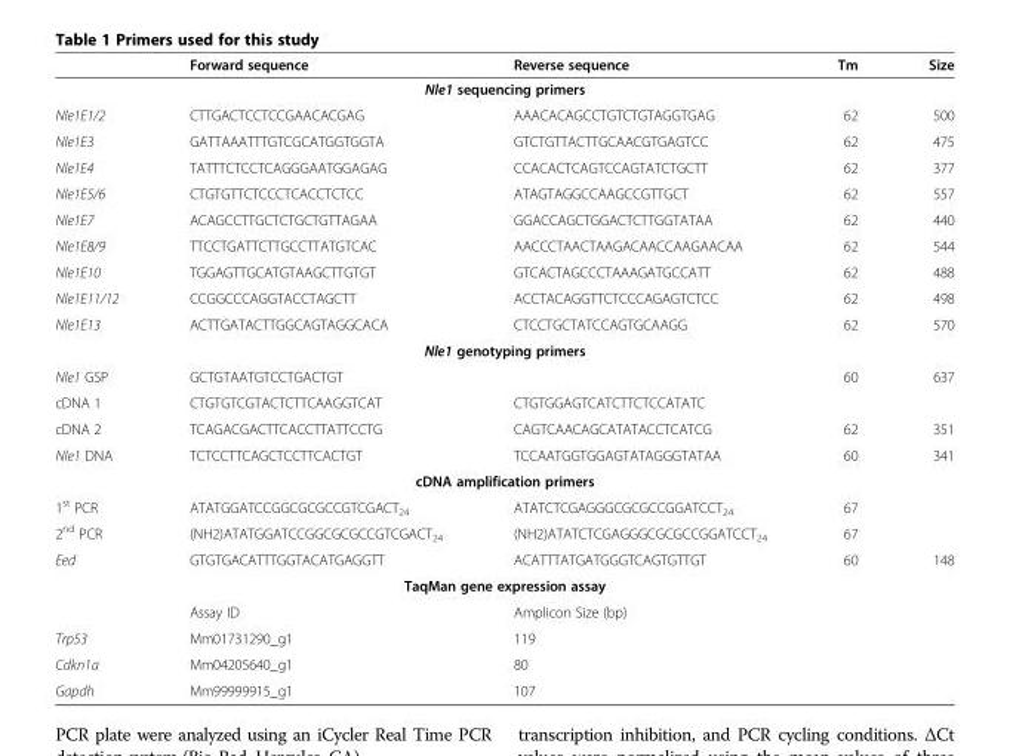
<table><thead><tr><td></td><td>Forward sequence</td><td>Reverse sequence</td><td>Tm</td><td>Size</td></tr></thead><tbody><tr><td colspan="5">Nle1 sequencing primers</td></tr><tr><td>Nle1E1/2</td><td>CTTGACTCCTCCGAACACGAG</td><td>AAACACAGCCTGTCTGTAGGTGAG</td><td>62</td><td>500</td></tr><tr><td>Nle1E3</td><td>GATTAAATTTGTCGCATGGTGGTA</td><td>GTCTGTTACTTGCAACGTGAGTCC</td><td>62</td><td>475</td></tr><tr><td>Nle1E4</td><td>TATTTCTCCTCAGGGAATGGAGAG</td><td>CCACACTCAGTCCAGTATCTGCTT</td><td>62</td><td>377</td></tr><tr><td>Nle1E5/6</td><td>CTGTGTTCTCCCTCACCTCTCC</td><td>ATAGTAGGCCAAGCCGTTGCT</td><td>62</td><td>557</td></tr><tr><td>Nle1E7</td><td>ACAGCCTTGCTCTGCTGTTAGAA</td><td>GGACCAGCTGGACTCTTGGTATAA</td><td>62</td><td>440</td></tr><tr><td>Nle1E8/9</td><td>TTCCTGATTCTTGCCTTATGTCAC</td><td>AACCCTAACTAAGACAACCAAGAACAA</td><td>62</td><td>544</td></tr><tr><td>Nle1E10</td><td>TGGAGTTGCATGTAAGCTTGTGT</td><td>GTCACTAGCCCTAAAGATGCCATT</td><td>62</td><td>488</td></tr><tr><td>Nle1E11/12</td><td>CCGGCCCAGGTACCTAGCTT</td><td>ACCTACAGGTTCTCCCAGAGTCTCC</td><td>62</td><td>498</td></tr><tr><td>Nle1E13</td><td>ACTTGATACTTGGCAGTAGGCACA</td><td>CTCCTGCTATCCAGTGCAAGG</td><td>62</td><td>570</td></tr><tr><td colspan="5">Nle1 genotyping primers</td></tr><tr><td>Nle1 GSP</td><td>GCTGTAATGTCCTGACTGT</td><td></td><td>60</td><td>637</td></tr><tr><td>cDNA 1</td><td>CTGTGTCGTACTCTTCAAGGTCAT</td><td>CTGTGGAGTCATCTTCTCCATATC</td><td></td><td></td></tr><tr><td>cDNA 2</td><td>TCAGACGACTTCACCTTATTCCTG</td><td>CAGTCAACAGCATATACCTCATCG</td><td>62</td><td>351</td></tr><tr><td>Nle1 DNA</td><td>TCTCCTTCAGCTCCTTCACTGT</td><td>TCCAATGGTGGAGTATAGGGTATAA</td><td>60</td><td>341</td></tr><tr><td colspan="5">cDNA amplification primers</td></tr><tr><td>1<sup>st</sup> PCR</td><td>ATATGGATCCGGCGCGCCGTCGACT<sub>24</sub></td><td>ATATCTCGAGGGCGCGCCGGATCCT<sub>24</sub></td><td>67</td><td></td></tr><tr><td>2<sup>nd</sup> PCR</td><td>(NH2)ATATGGATCCGGCGCGCCGTCGACT<sub>24</sub></td><td>(NH2)ATATCTCGAGGGCGCGCCGGATCCT<sub>24</sub></td><td>67</td><td></td></tr><tr><td>Eed</td><td>GTGTGACATTTGGTACATGAGGTT</td><td>ACATTTATGATGGGTCAGTGTTGT</td><td>60</td><td>148</td></tr><tr><td colspan="5">TaqMan gene expression assay</td></tr><tr><td></td><td>Assay ID</td><td>Amplicon Size (bp)</td><td></td><td></td></tr><tr><td>Trp53</td><td>Mm01731290_g1</td><td>119</td><td></td><td></td></tr><tr><td>Cdkn1a</td><td>Mm04205640_g1</td><td>80</td><td></td><td></td></tr><tr><td>Gapdh</td><td>Mm99999915_g1</td><td>107</td><td></td><td></td></tr></tbody></table>